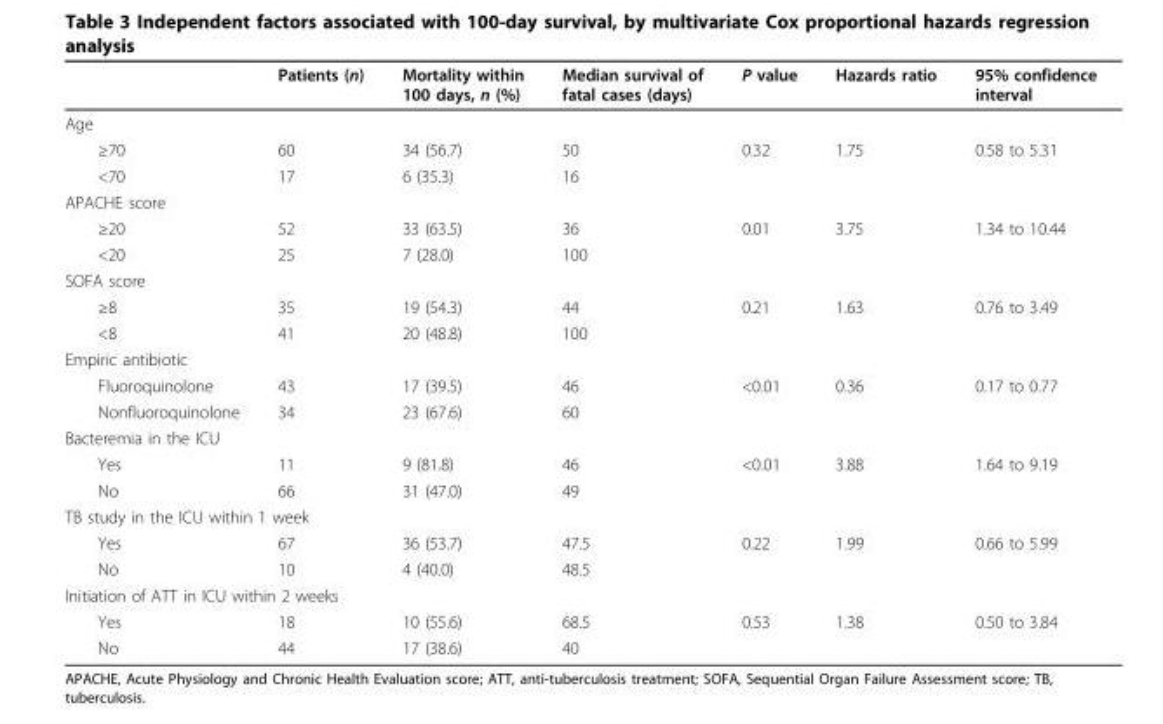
<table><thead><tr><td></td><td>Patients (n)</td><td>Mortality within 100 days, n (%)</td><td>Median survival of fatal cases (days)</td><td>P value</td><td>Hazards ratio</td><td>95% confidence interval</td></tr></thead><tbody><tr><td colspan="7">Age</td></tr><tr><td>≥70</td><td>60</td><td>34 (56.7)</td><td>50</td><td>0.32</td><td>1.75</td><td>0.58 to 5.31</td></tr><tr><td>&lt;70</td><td>17</td><td>6 (35.3)</td><td>16</td><td></td><td></td><td></td></tr><tr><td colspan="7">APACHE score</td></tr><tr><td>≥20</td><td>52</td><td>33 (63.5)</td><td>36</td><td>0.01</td><td>3.75</td><td>1.34 to 10.44</td></tr><tr><td>&lt;20</td><td>25</td><td>7 (28.0)</td><td>100</td><td></td><td></td><td></td></tr><tr><td colspan="7">SOFA score</td></tr><tr><td>≥8</td><td>35</td><td>19 (54.3)</td><td>44</td><td>0.21</td><td>1.63</td><td>0.76 to 3.49</td></tr><tr><td>&lt;8</td><td>41</td><td>20 (48.8)</td><td>100</td><td></td><td></td><td></td></tr><tr><td colspan="7">Empiric antibiotic</td></tr><tr><td>Fluoroquinolone</td><td>43</td><td>17 (39.5)</td><td>46</td><td>&lt;0.01</td><td>0.36</td><td>0.17 to 0.77</td></tr><tr><td>Nonfluoroquinolone</td><td>34</td><td>23 (67.6)</td><td>60</td><td></td><td></td><td></td></tr><tr><td colspan="7">Bacteremia in the ICU</td></tr><tr><td>Yes</td><td>11</td><td>9 (81.8)</td><td>46</td><td>&lt;0.01</td><td>3.88</td><td>1.64 to 9.19</td></tr><tr><td>No</td><td>66</td><td>31 (47.0)</td><td>49</td><td></td><td></td><td></td></tr><tr><td colspan="7">TB study in the ICU within 1 week</td></tr><tr><td>Yes</td><td>67</td><td>36 (53.7)</td><td>47.5</td><td>0.22</td><td>1.99</td><td>0.66 to 5.99</td></tr><tr><td>No</td><td>10</td><td>4 (40.0)</td><td>48.5</td><td></td><td></td><td></td></tr><tr><td colspan="7">Initiation of ATT in ICU within 2 weeks</td></tr><tr><td>Yes</td><td>18</td><td>10 (55.6)</td><td>68.5</td><td>0.53</td><td>1.38</td><td>0.50 to 3.84</td></tr><tr><td>No</td><td>44</td><td>17 (38.6)</td><td>40</td><td></td><td></td><td></td></tr></tbody></table>